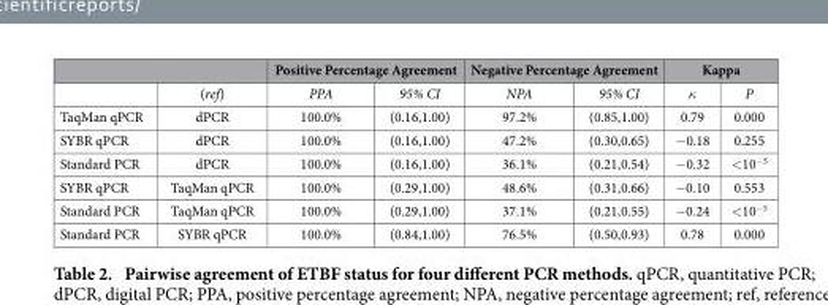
<table><thead><tr><td rowspan="2"></td><td rowspan="2">(ref)</td><td colspan="2">Positive Percentage Agreement</td><td colspan="2">Negative Percentage Agreement</td><td colspan="2">Kappa</td></tr><tr><td>PPA</td><td>95% CI</td><td>NPA</td><td>95% CI</td><td>κ</td><td>P</td></tr></thead><tbody><tr><td>TaqMan qPCR</td><td>dPCR</td><td>100.0%</td><td>(0.16,1.00)</td><td>97.2%</td><td>(0.85,1.00)</td><td>0.79</td><td>0.000</td></tr><tr><td>SYBR qPCR</td><td>dPCR</td><td>100.0%</td><td>(0.16,1.00)</td><td>47.2%</td><td>(0.30,0.65)</td><td>− 0.18</td><td>0.255</td></tr><tr><td>Standard PCR</td><td>dPCR</td><td>100.0%</td><td>(0.16,1.00)</td><td>36.1%</td><td>(0.21,0.54)</td><td>− 0.32</td><td>&lt; 10<sup>−5</sup></td></tr><tr><td>SYBR qPCR</td><td>TaqMan qPCR</td><td>100.0%</td><td>(0.29,1.00)</td><td>48.6%</td><td>(0.31,0.66)</td><td>− 0.10</td><td>0.553</td></tr><tr><td>Standard PCR</td><td>TaqMan qPCR</td><td>100.0%</td><td>(0.29,1.00)</td><td>37.1%</td><td>(0.21,0.55)</td><td>− 0.24</td><td>&lt; 10<sup>−5</sup></td></tr><tr><td>Standard PCR</td><td>SYBR qPCR</td><td>100.0%</td><td>(0.84,1.00)</td><td>76.5%</td><td>(0.50,0.93)</td><td>0.78</td><td>0.000</td></tr></tbody></table>